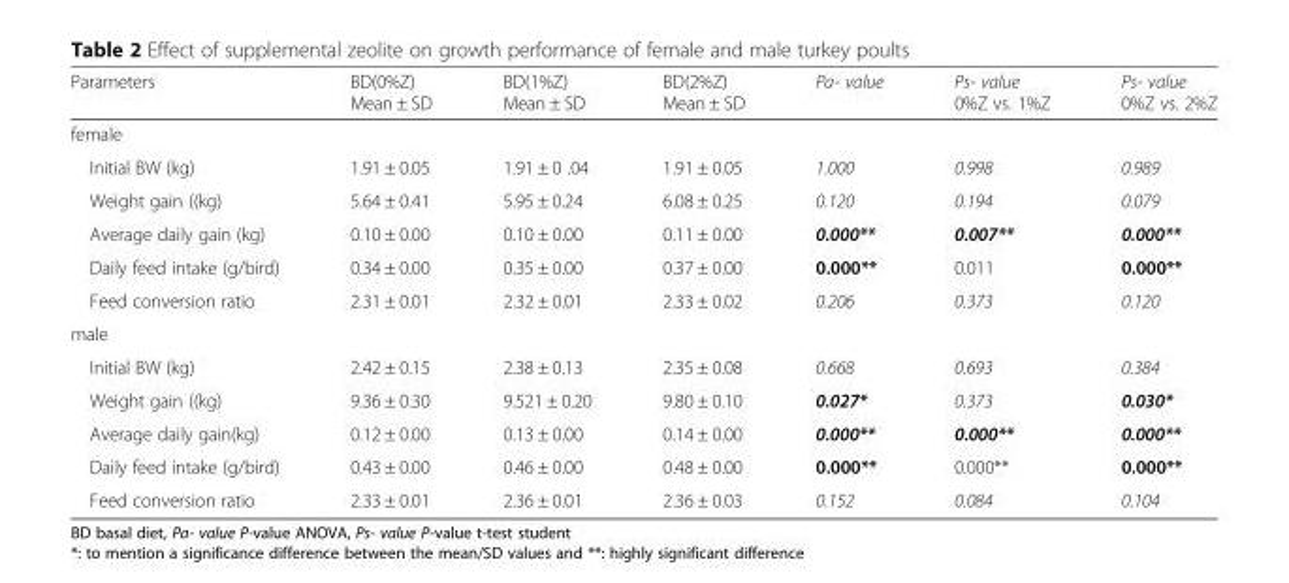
<table><thead><tr><td>Parameters</td><td>BD(0%Z) Mean ± SD</td><td>BD(1%Z) Mean ± SD</td><td>BD(2%Z) Mean ± SD</td><td>Pa- value</td><td>Ps- value 0%Z vs. 1%Z</td><td>Ps- value 0%Z vs. 2%Z</td></tr></thead><tbody><tr><td colspan="7">female</td></tr><tr><td>Initial BW (kg)</td><td>1.91 ± 0.05</td><td>1.91 ± 0 .04</td><td>1.91 ± 0.05</td><td>1.000</td><td>0.998</td><td>0.989</td></tr><tr><td>Weight gain ((kg)</td><td>5.64 ± 0.41</td><td>5.95 ± 0.24</td><td>6.08 ± 0.25</td><td>0.120</td><td>0.194</td><td>0.079</td></tr><tr><td>Average daily gain (kg)</td><td>0.10 ± 0.00</td><td>0.10 ± 0.00</td><td>0.11 ± 0.00</td><td>0.000**</td><td>0.007**</td><td>0.000**</td></tr><tr><td>Daily feed intake (g/bird)</td><td>0.34 ± 0.00</td><td>0.35 ± 0.00</td><td>0.37 ± 0.00</td><td>0.000**</td><td>0.011</td><td>0.000**</td></tr><tr><td>Feed conversion ratio</td><td>2.31 ± 0.01</td><td>2.32 ± 0.01</td><td>2.33 ± 0.02</td><td>0.206</td><td>0.373</td><td>0.120</td></tr><tr><td colspan="7">male</td></tr><tr><td>Initial BW (kg)</td><td>2.42 ± 0.15</td><td>2.38 ± 0.13</td><td>2.35 ± 0.08</td><td>0.668</td><td>0.693</td><td>0.384</td></tr><tr><td>Weight gain ((kg)</td><td>9.36 ± 0.30</td><td>9.521 ± 0.20</td><td>9.80 ± 0.10</td><td>0.027*</td><td>0.373</td><td>0.030*</td></tr><tr><td>Average daily gain(kg)</td><td>0.12 ± 0.00</td><td>0.13 ± 0.00</td><td>0.14 ± 0.00</td><td>0.000**</td><td>0.000**</td><td>0.000**</td></tr><tr><td>Daily feed intake (g/bird)</td><td>0.43 ± 0.00</td><td>0.46 ± 0.00</td><td>0.48 ± 0.00</td><td>0.000**</td><td>0.000**</td><td>0.000**</td></tr><tr><td>Feed conversion ratio</td><td>2.33 ± 0.01</td><td>2.36 ± 0.01</td><td>2.36 ± 0.03</td><td>0.152</td><td>0.084</td><td>0.104</td></tr></tbody></table>